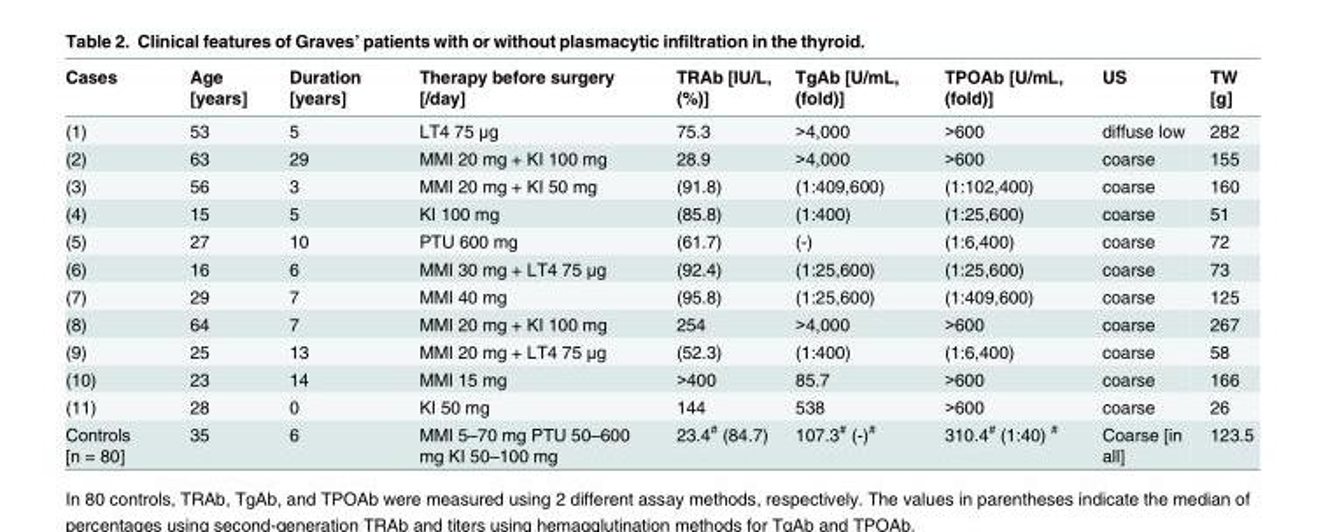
<table><thead><tr><td>Cases</td><td>Age [years]</td><td>Duration [years]</td><td>Therapy before surgery [/day]</td><td>TRAb [IU/L, (%)]</td><td>TgAb [U/mL, (fold)]</td><td>TPOAb [U/mL, (fold)]</td><td>US</td><td>TW [g]</td></tr></thead><tbody><tr><td>(1)</td><td>53</td><td>5</td><td>LT4 75 μg</td><td>75.3</td><td>&gt;4,000</td><td>&gt;600</td><td>diffuse low</td><td>282</td></tr><tr><td>(2)</td><td>63</td><td>29</td><td>MMI 20 mg + KI 100 mg</td><td>28.9</td><td>&gt;4,000</td><td>&gt;600</td><td>coarse</td><td>155</td></tr><tr><td>(3)</td><td>56</td><td>3</td><td>MMI 20 mg + KI 50 mg</td><td>(91.8)</td><td>(1:409,600)</td><td>(1:102,400)</td><td>coarse</td><td>160</td></tr><tr><td>(4)</td><td>15</td><td>5</td><td>KI 100 mg</td><td>(85.8)</td><td>(1:400)</td><td>(1:25,600)</td><td>coarse</td><td>51</td></tr><tr><td>(5)</td><td>27</td><td>10</td><td>PTU 600 mg</td><td>(61.7)</td><td>(-)</td><td>(1:6,400)</td><td>coarse</td><td>72</td></tr><tr><td>(6)</td><td>16</td><td>6</td><td>MMI 30 mg + LT4 75 μg</td><td>(92.4)</td><td>(1:25,600)</td><td>(1:25,600)</td><td>coarse</td><td>73</td></tr><tr><td>(7)</td><td>29</td><td>7</td><td>MMI 40 mg</td><td>(95.8)</td><td>(1:25,600)</td><td>(1:409,600)</td><td>coarse</td><td>125</td></tr><tr><td>(8)</td><td>64</td><td>7</td><td>MMI 20 mg + KI 100 mg</td><td>254</td><td>&gt;4,000</td><td>&gt;600</td><td>coarse</td><td>267</td></tr><tr><td>(9)</td><td>25</td><td>13</td><td>MMI 20 mg + LT4 75 μg</td><td>(52.3)</td><td>(1:400)</td><td>(1:6,400)</td><td>coarse</td><td>58</td></tr><tr><td>(10)</td><td>23</td><td>14</td><td>MMI 15 mg</td><td>&gt;400</td><td>85.7</td><td>&gt;600</td><td>coarse</td><td>166</td></tr><tr><td>(11)</td><td>28</td><td>0</td><td>KI 50 mg</td><td>144</td><td>538</td><td>&gt;600</td><td>coarse</td><td>26</td></tr><tr><td>Controls [n = 80]</td><td>35</td><td>6</td><td>MMI 5–70 mg PTU 50–600 mg KI 50–100 mg</td><td>23.4<sup>#</sup> (84.7)</td><td>107.3<sup>#</sup> (-)<sup>#</sup></td><td>310.4<sup>#</sup> (1:40) <sup>#</sup></td><td>Coarse [in all]</td><td>123.5</td></tr></tbody></table>